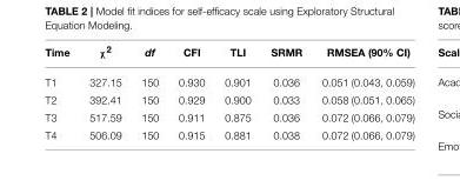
<table><thead><tr><td>Time</td><td>χ<sup>2</sup></td><td>df</td><td>CFI</td><td>TLI</td><td>SRMR</td><td>RMSEA (90% CI)</td></tr></thead><tbody><tr><td>T1</td><td>327.15</td><td>150</td><td>0.930</td><td>0.901</td><td>0.036</td><td>0.051 (0.043, 0.059)</td></tr><tr><td>T2</td><td>392.41</td><td>150</td><td>0.929</td><td>0.900</td><td>0.033</td><td>0.058 (0.051, 0.065)</td></tr><tr><td>T3</td><td>517.59</td><td>150</td><td>0.911</td><td>0.875</td><td>0.036</td><td>0.072 (0.066, 0.079)</td></tr><tr><td>T4</td><td>506.09</td><td>150</td><td>0.915</td><td>0.881</td><td>0.038</td><td>0.072 (0.066, 0.079)</td></tr></tbody></table>